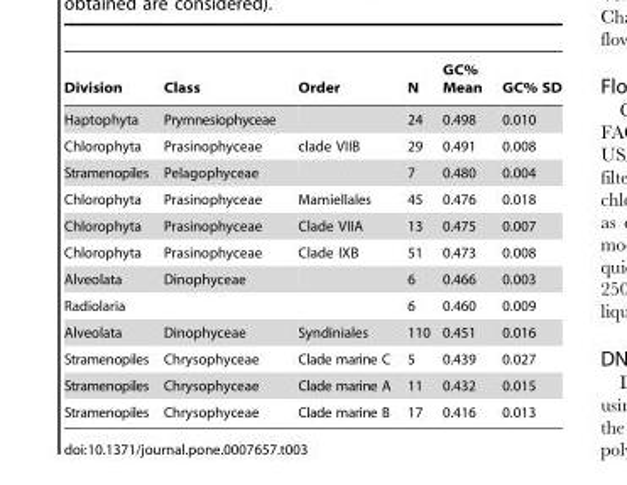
<table><thead><tr><td>Division</td><td>Class</td><td>Order</td><td>N</td><td>GC% Mean</td><td>GC% SD</td></tr></thead><tbody><tr><td>Haptophyta</td><td>Prymnesiophyceae</td><td></td><td>24</td><td>0.498</td><td>0.010</td></tr><tr><td>Chlorophyta</td><td>Prasinophyceae</td><td>clade VIIB</td><td>29</td><td>0.491</td><td>0.008</td></tr><tr><td>Stramenopiles</td><td>Pelagophyceae</td><td></td><td>7</td><td>0.480</td><td>0.004</td></tr><tr><td>Chlorophyta</td><td>Prasinophyceae</td><td>Mamiellales</td><td>45</td><td>0.476</td><td>0.018</td></tr><tr><td>Chlorophyta</td><td>Prasinophyceae</td><td>Clade VIIA</td><td>13</td><td>0.475</td><td>0.007</td></tr><tr><td>Chlorophyta</td><td>Prasinophyceae</td><td>Clade IXB</td><td>51</td><td>0.473</td><td>0.008</td></tr><tr><td>Alveolata</td><td>Dinophyceae</td><td></td><td>6</td><td>0.466</td><td>0.003</td></tr><tr><td>Radiolaria</td><td></td><td></td><td>6</td><td>0.460</td><td>0.009</td></tr><tr><td>Alveolata</td><td>Dinophyceae</td><td>Syndiniales</td><td>110</td><td>0.451</td><td>0.016</td></tr><tr><td>Stramenopiles</td><td>Chrysophyceae</td><td>Clade marine C</td><td>5</td><td>0.439</td><td>0.027</td></tr><tr><td>Stramenopiles</td><td>Chrysophyceae</td><td>Clade marine A</td><td>11</td><td>0.432</td><td>0.015</td></tr><tr><td>Stramenopiles</td><td>Chrysophyceae</td><td>Clade marine B</td><td>17</td><td>0.416</td><td>0.013</td></tr></tbody></table>